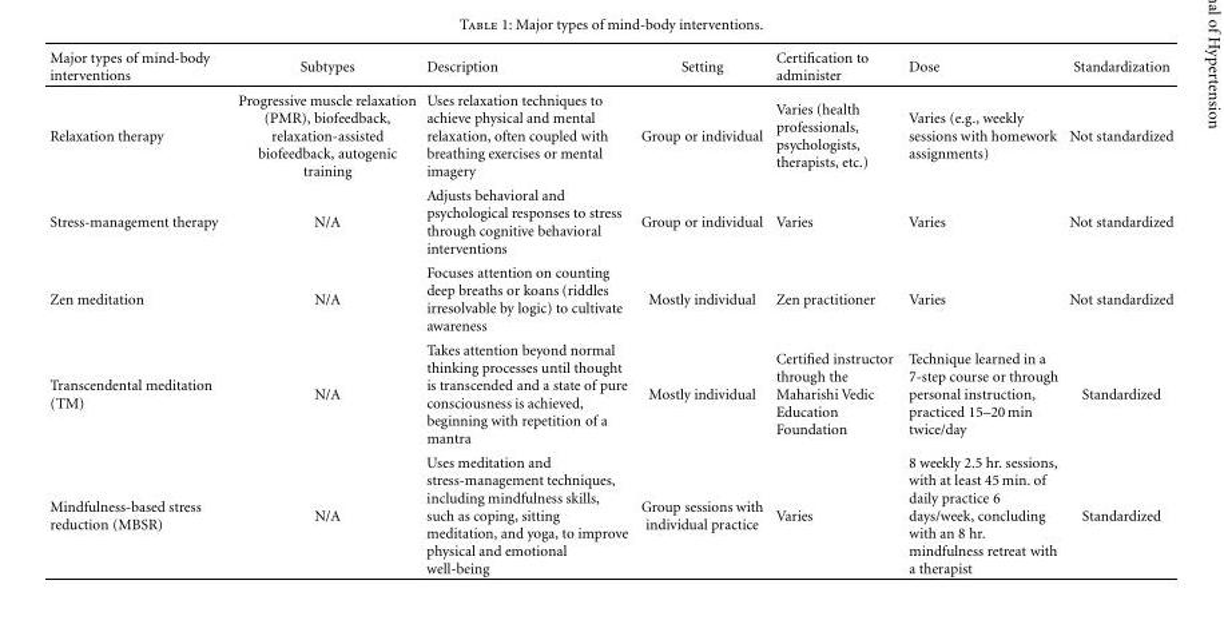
<table><thead><tr><td>Major types of mind-body interventions</td><td>Subtypes</td><td>Description</td><td>Setting</td><td>Certification to administer</td><td>Dose</td><td>Standardization</td></tr></thead><tbody><tr><td>Relaxation therapy</td><td>Progressive muscle relaxation (PMR), biofeedback, relaxation-assisted biofeedback, autogenic training</td><td>Uses relaxation techniques to achieve physical and mental relaxation, often coupled with breathing exercises or mental imagery</td><td>Group or individual</td><td>Varies (health professionals, psychologists, therapists, etc.)</td><td>Varies (e.g., weekly sessions with homework assignments)</td><td>Not standardized</td></tr><tr><td>Stress-management therapy</td><td>N/A</td><td>Adjusts behavioral and psychological responses to stress through cognitive behavioral interventions</td><td>Group or individual</td><td>Varies</td><td>Varies</td><td>Not standardized</td></tr><tr><td>Zen meditation</td><td>N/A</td><td>Focuses attention on counting deep breaths or koans (riddles irresolvable by logic) to cultivate awareness</td><td>Mostly individual</td><td>Zen practitioner</td><td>Varies</td><td>Not standardized</td></tr><tr><td>Transcendental meditation (TM)</td><td>N/A</td><td>Takes attention beyond normal thinking processes until thought is transcended and a state of pure consciousness is achieved, beginning with repetition of a mantra</td><td>Mostly individual</td><td>Certified instructor through the Maharishi Vedic Education Foundation</td><td>Technique learned in a 7-step course or through personal instruction, practiced 15–20 min twice/day</td><td>Standardized</td></tr><tr><td>Mindfulness-based stress reduction (MBSR)</td><td>N/A</td><td>Uses meditation and stress-management techniques, including mindfulness skills, such as coping, sitting meditation, and yoga, to improve physical and emotional well-being</td><td>Group sessions with individual practice</td><td>Varies</td><td>8 weekly 2.5 hr. sessions, with at least 45 min. of daily practice 6 days/week, concluding with an 8 hr. mindfulness retreat with a therapist</td><td>Standardized</td></tr></tbody></table>